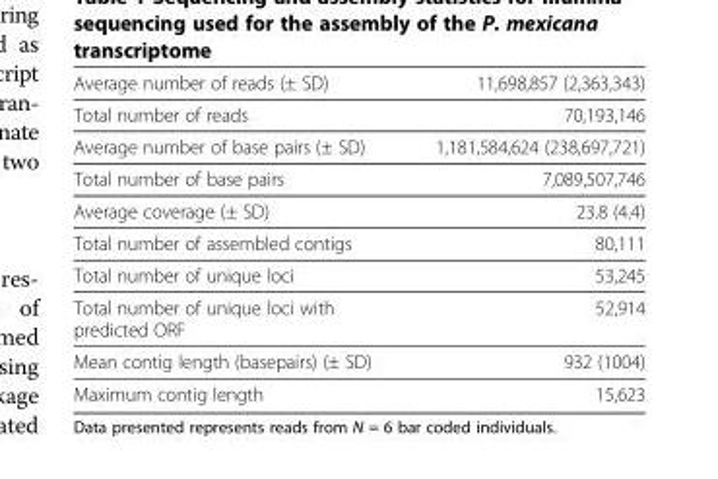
<table><thead><tr><td>Average number of reads (± SD)</td><td>11,698,857 (2,363,343)</td></tr></thead><tbody><tr><td>Total number of reads</td><td>70,193,146</td></tr><tr><td>Average number of base pairs (± SD)</td><td>1,181,584,624 (238,697,721)</td></tr><tr><td>Total number of base pairs</td><td>7,089,507,746</td></tr><tr><td>Average coverage (± SD)</td><td>23.8 (4.4)</td></tr><tr><td>Total number of assembled contigs</td><td>80,111</td></tr><tr><td>Total number of unique loci</td><td>53,245</td></tr><tr><td>Total number of unique loci with predicted ORF</td><td>52,914</td></tr><tr><td>Mean contig length (basepairs) (± SD)</td><td>932 (1004)</td></tr><tr><td>Maximum contig length</td><td>15,623</td></tr></tbody></table>